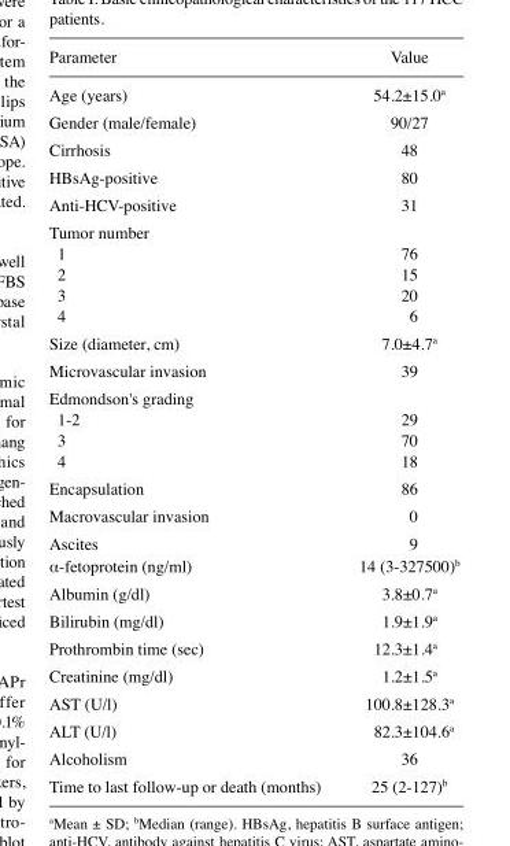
<table><thead><tr><td>Parameter</td><td>Value</td></tr></thead><tbody><tr><td>Age (years)</td><td>54.2±15.0<sup>a</sup></td></tr><tr><td>Gender (male/female)</td><td>90/27</td></tr><tr><td>Cirrhosis</td><td>48</td></tr><tr><td>HBsAg-positive</td><td>80</td></tr><tr><td>Anti-HCV-positive</td><td>31</td></tr><tr><td colspan="2">Tumor number</td></tr><tr><td>1</td><td>76</td></tr><tr><td>2</td><td>15</td></tr><tr><td>3</td><td>20</td></tr><tr><td>4</td><td>6</td></tr><tr><td>Size (diameter, cm)</td><td>7.0±4.7<sup>a</sup></td></tr><tr><td>Microvascular invasion</td><td>39</td></tr><tr><td colspan="2">Edmondson&#x27;s grading</td></tr><tr><td>1-2</td><td>29</td></tr><tr><td>3</td><td>70</td></tr><tr><td>4</td><td>18</td></tr><tr><td>Encapsulation</td><td>86</td></tr><tr><td>Macrovascular invasion</td><td>0</td></tr><tr><td>Ascites</td><td>9</td></tr><tr><td>α-fetoprotein (ng/ml)</td><td>14 (3-327500)<sup>b</sup></td></tr><tr><td>Albumin (g/dl)</td><td>3.8±0.7<sup>a</sup></td></tr><tr><td>Bilirubin (mg/dl)</td><td>1.9±1.9<sup>a</sup></td></tr><tr><td>Prothrombin time (sec)</td><td>12.3±1.4<sup>a</sup></td></tr><tr><td>Creatinine (mg/dl)</td><td>1.2±1.5<sup>a</sup></td></tr><tr><td>AST (U/l)</td><td>100.8±128.3<sup>a</sup></td></tr><tr><td>ALT (U/l)</td><td>82.3±104.6<sup>a</sup></td></tr><tr><td>Alcoholism</td><td>36</td></tr><tr><td>Time to last follow-up or death (months)</td><td>25 (2-127)<sup>b</sup></td></tr></tbody></table>